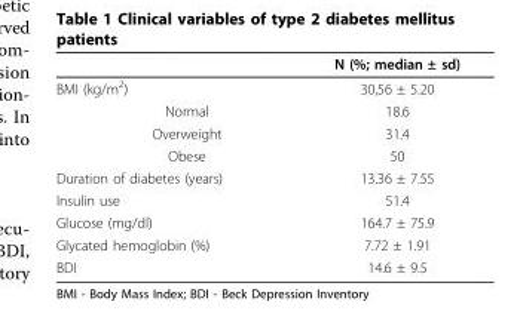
<table><thead><tr><td></td><td>N (%; median ± sd)</td></tr></thead><tbody><tr><td>BMI (kg/m<sup>2</sup>)</td><td>30,56 ± 5.20</td></tr><tr><td>Normal</td><td>18.6</td></tr><tr><td>Overweight</td><td>31.4</td></tr><tr><td>Obese</td><td>50</td></tr><tr><td>Duration of diabetes (years)</td><td>13.36 ± 7.55</td></tr><tr><td>Insulin use</td><td>51.4</td></tr><tr><td>Glucose (mg/dl)</td><td>164.7 ± 75.9</td></tr><tr><td>Glycated hemoglobin (%)</td><td>7.72 ± 1.91</td></tr><tr><td>BDI</td><td>14.6 ± 9.5</td></tr></tbody></table>